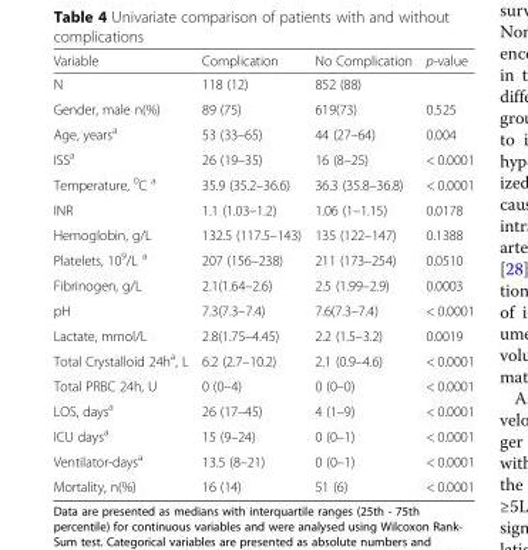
<table><thead><tr><td>Variable</td><td>Complication</td><td>No Complication</td><td>p-value</td></tr></thead><tbody><tr><td>N</td><td>118 (12)</td><td>852 (88)</td><td></td></tr><tr><td>Gender, male n(%)</td><td>89 (75)</td><td>619(73)</td><td>0.525</td></tr><tr><td>Age, years<sup>a</sup></td><td>53 (33–65)</td><td>44 (27–64)</td><td>0.004</td></tr><tr><td>ISS<sup>a</sup></td><td>26 (19–35)</td><td>16 (8–25)</td><td>&lt; 0.0001</td></tr><tr><td>Temperature, <sup>0</sup>C <sup>a</sup></td><td>35.9 (35.2–36.6)</td><td>36.3 (35.8–36.8)</td><td>&lt; 0.0001</td></tr><tr><td>INR</td><td>1.1 (1.03–1.2)</td><td>1.06 (1–1.15)</td><td>0.0178</td></tr><tr><td>Hemoglobin, g/L</td><td>132.5 (117.5–143)</td><td>135 (122–147)</td><td>0.1388</td></tr><tr><td>Platelets, 10<sup>9</sup>/L <sup>a</sup></td><td>207 (156–238)</td><td>211 (173–254)</td><td>0.0510</td></tr><tr><td>Fibrinogen, g/L</td><td>2.1(1.64–2.6)</td><td>2.5 (1.99–2.9)</td><td>0.0003</td></tr><tr><td>pH</td><td>7.3(7.3–7.4)</td><td>7.6(7.3–7.4)</td><td>&lt; 0.0001</td></tr><tr><td>Lactate, mmol/L</td><td>2.8(1.75–4.45)</td><td>2.2 (1.5–3.2)</td><td>0.0019</td></tr><tr><td>Total Crystalloid 24h<sup>a</sup>, L</td><td>6.2 (2.7–10.2)</td><td>2.1 (0.9–4.6)</td><td>&lt; 0.0001</td></tr><tr><td>Total PRBC 24h, U</td><td>0 (0–4)</td><td>0 (0–0)</td><td>&lt; 0.0001</td></tr><tr><td>LOS, days<sup>a</sup></td><td>26 (17–45)</td><td>4 (1–9)</td><td>&lt; 0.0001</td></tr><tr><td>ICU days<sup>a</sup></td><td>15 (9–24)</td><td>0 (0–1)</td><td>&lt; 0.0001</td></tr><tr><td>Ventilator-days<sup>a</sup></td><td>13.5 (8–21)</td><td>0 (0–1)</td><td>&lt; 0.0001</td></tr><tr><td>Mortality, n(%)</td><td>16 (14)</td><td>51 (6)</td><td>&lt; 0.0001</td></tr></tbody></table>